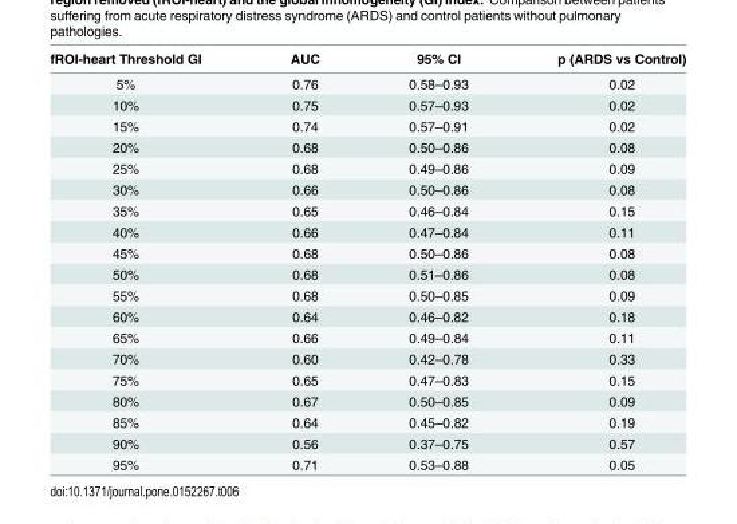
<table><thead><tr><td>fROI-heart Threshold GI</td><td>AUC</td><td>95% CI</td><td>p (ARDS vs Control)</td></tr></thead><tbody><tr><td>5%</td><td>0.76</td><td>0.58–0.93</td><td>0.02</td></tr><tr><td>10%</td><td>0.75</td><td>0.57–0.93</td><td>0.02</td></tr><tr><td>15%</td><td>0.74</td><td>0.57–0.91</td><td>0.02</td></tr><tr><td>20%</td><td>0.68</td><td>0.50–0.86</td><td>0.08</td></tr><tr><td>25%</td><td>0.68</td><td>0.49–0.86</td><td>0.09</td></tr><tr><td>30%</td><td>0.66</td><td>0.50–0.86</td><td>0.08</td></tr><tr><td>35%</td><td>0.65</td><td>0.46–0.84</td><td>0.15</td></tr><tr><td>40%</td><td>0.66</td><td>0.47–0.84</td><td>0.11</td></tr><tr><td>45%</td><td>0.68</td><td>0.50–0.86</td><td>0.08</td></tr><tr><td>50%</td><td>0.68</td><td>0.51–0.86</td><td>0.08</td></tr><tr><td>55%</td><td>0.68</td><td>0.50–0.85</td><td>0.09</td></tr><tr><td>60%</td><td>0.64</td><td>0.46–0.82</td><td>0.18</td></tr><tr><td>65%</td><td>0.66</td><td>0.49–0.84</td><td>0.11</td></tr><tr><td>70%</td><td>0.60</td><td>0.42–0.78</td><td>0.33</td></tr><tr><td>75%</td><td>0.65</td><td>0.47–0.83</td><td>0.15</td></tr><tr><td>80%</td><td>0.67</td><td>0.50–0.85</td><td>0.09</td></tr><tr><td>85%</td><td>0.64</td><td>0.45–0.82</td><td>0.19</td></tr><tr><td>90%</td><td>0.56</td><td>0.37–0.75</td><td>0.57</td></tr><tr><td>95%</td><td>0.71</td><td>0.53–0.88</td><td>0.05</td></tr></tbody></table>